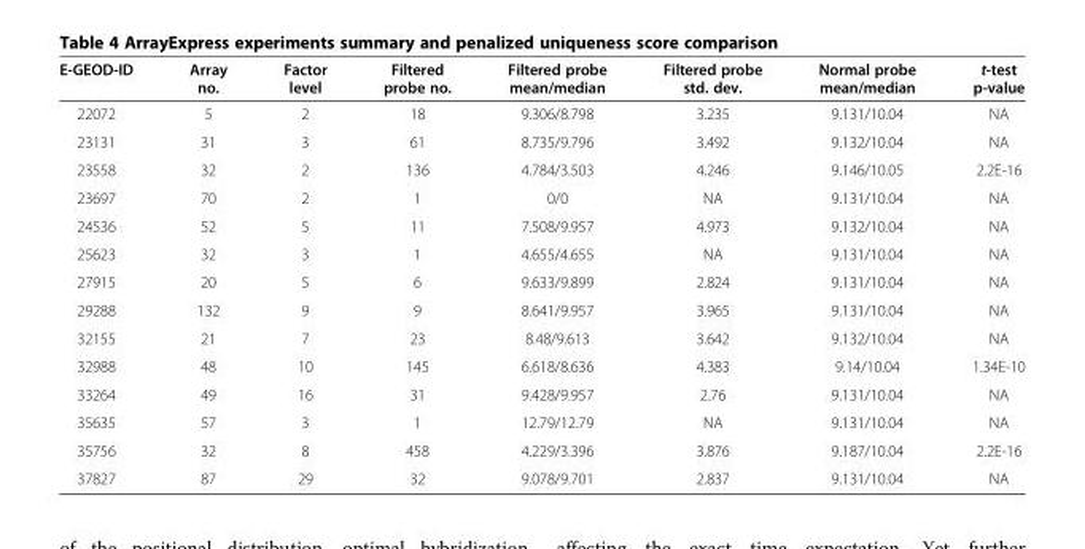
<table><thead><tr><td>E-GEOD-ID</td><td>Array no.</td><td>Factor level</td><td>Filtered probe no.</td><td>Filtered probe mean/median</td><td>Filtered probe std. dev.</td><td>Normal probe mean/median</td><td>t-test p-value</td></tr></thead><tbody><tr><td>22072</td><td>5</td><td>2</td><td>18</td><td>9.306/8.798</td><td>3.235</td><td>9.131/10.04</td><td>NA</td></tr><tr><td>23131</td><td>31</td><td>3</td><td>61</td><td>8.735/9.796</td><td>3.492</td><td>9.132/10.04</td><td>NA</td></tr><tr><td>23558</td><td>32</td><td>2</td><td>136</td><td>4.784/3.503</td><td>4.246</td><td>9.146/10.05</td><td>2.2E-16</td></tr><tr><td>23697</td><td>70</td><td>2</td><td>1</td><td>0/0</td><td>NA</td><td>9.131/10.04</td><td>NA</td></tr><tr><td>24536</td><td>52</td><td>5</td><td>11</td><td>7.508/9.957</td><td>4.973</td><td>9.132/10.04</td><td>NA</td></tr><tr><td>25623</td><td>32</td><td>3</td><td>1</td><td>4.655/4.655</td><td>NA</td><td>9.131/10.04</td><td>NA</td></tr><tr><td>27915</td><td>20</td><td>5</td><td>6</td><td>9.633/9.899</td><td>2.824</td><td>9.131/10.04</td><td>NA</td></tr><tr><td>29288</td><td>132</td><td>9</td><td>9</td><td>8.641/9.957</td><td>3.965</td><td>9.131/10.04</td><td>NA</td></tr><tr><td>32155</td><td>21</td><td>7</td><td>23</td><td>8.48/9.613</td><td>3.642</td><td>9.132/10.04</td><td>NA</td></tr><tr><td>32988</td><td>48</td><td>10</td><td>145</td><td>6.618/8.636</td><td>4.383</td><td>9.14/10.04</td><td>1.34E-10</td></tr><tr><td>33264</td><td>49</td><td>16</td><td>31</td><td>9.428/9.957</td><td>2.76</td><td>9.131/10.04</td><td>NA</td></tr><tr><td>35635</td><td>57</td><td>3</td><td>1</td><td>12.79/12.79</td><td>NA</td><td>9.131/10.04</td><td>NA</td></tr><tr><td>35756</td><td>32</td><td>8</td><td>458</td><td>4.229/3.396</td><td>3.876</td><td>9.187/10.04</td><td>2.2E-16</td></tr><tr><td>37827</td><td>87</td><td>29</td><td>32</td><td>9.078/9.701</td><td>2.837</td><td>9.131/10.04</td><td>NA</td></tr></tbody></table>